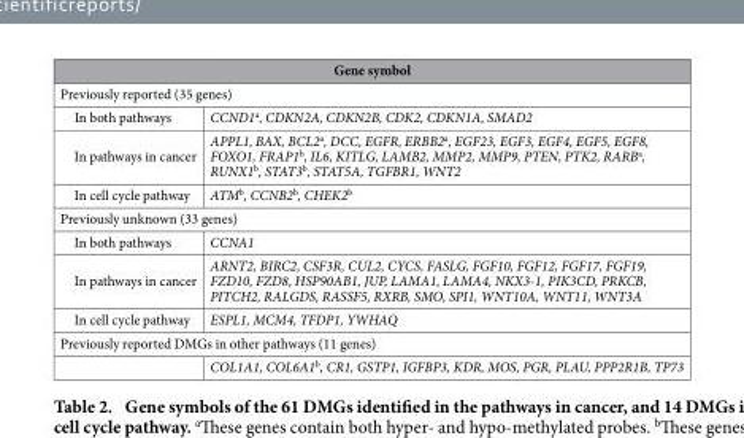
<table><thead><tr><td rowspan="2" colspan="2">Gene symbol Previously reported (35 genes)</td></tr><tr></tr><tr><td>In both pathways</td><td>CCND1<sup>a</sup>, CDKN2A, CDKN2B, CDK2, CDKN1A, SMAD2</td></tr></thead><tbody><tr><td>In pathways in cancer</td><td>APPL1, BAX, BCL2<sup>a</sup>, DCC, EGFR, ERBB2<sup>a</sup>, EGF23, EGF3, EGF4, EGF5, EGF8, FOXO1, FRAP1<sup>b</sup>, IL6, KITLG, LAMB2, MMP2, MMP9, PTEN, PTK2, RARB<sup>a</sup>, RUNX1<sup>b</sup>, STAT3<sup>b</sup>, STAT5A, TGFBR1, WNT2</td></tr><tr><td>In cell cycle pathway</td><td>ATM<sup>b</sup>, CCNB2<sup>b</sup>, CHEK2<sup>b</sup></td></tr><tr><td colspan="2">Previously unknown (33 genes)</td></tr><tr><td>In both pathways</td><td>CCNA1</td></tr><tr><td>In pathways in cancer</td><td>ARNT2, BIRC2, CSF3R, CUL2, CYCS, FASLG, FGF10, FGF12, FGF17, FGF19, FZD10, FZD8, HSP90AB1, JUP, LAMA1, LAMA4, NKX3-1, PIK3CD, PRKCB, PITCH2, RALGDS, RASSF5, RXRB, SMO, SPI1, WNT10A, WNT11, WNT3A</td></tr><tr><td>In cell cycle pathway</td><td>ESPL1, MCM4, TFDP1, YWHAQ</td></tr><tr><td colspan="2">Previously reported DMGs in other pathways (11 genes)</td></tr><tr><td></td><td>COL1A1, COL6A1<sup>b</sup>, CR1, GSTP1, IGFBP3, KDR, MOS, PGR, PLAU, PPP2R1B, TP73</td></tr></tbody></table>